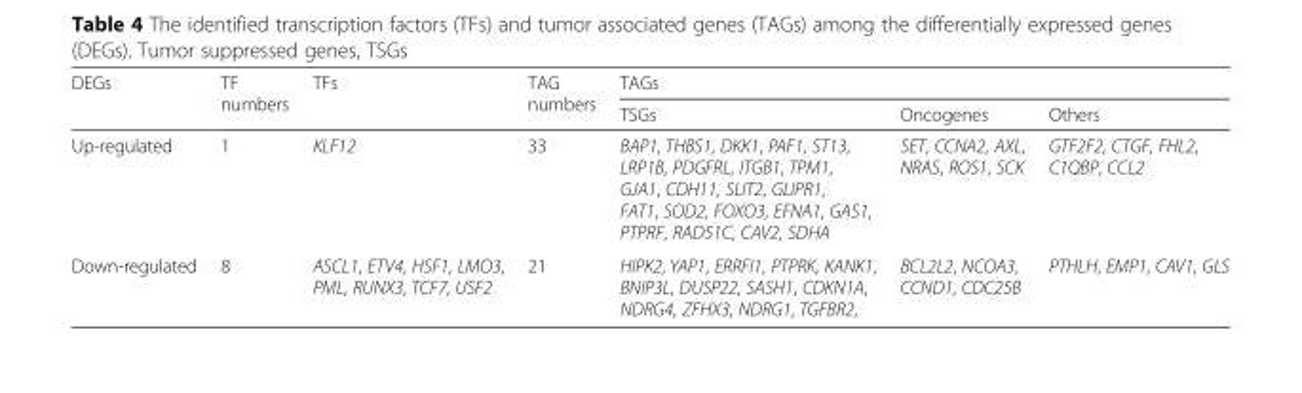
<table><thead><tr><td rowspan="2">DEGs</td><td rowspan="2">TF numbers</td><td rowspan="2">TFs</td><td rowspan="2">TAG numbers</td><td colspan="3">TAGs</td></tr><tr><td>TSGs</td><td>Oncogenes</td><td>Others</td></tr></thead><tbody><tr><td>Up-regulated</td><td>1</td><td>KLF12</td><td>33</td><td>BAP1, THBS1, DKK1, PAF1, ST13, LRP1B, PDGFRL, ITGB1, TPM1, GJA1, CDH11, SLIT2, GLIPR1, FAT1, SOD2, FOXO3, EFNA1, GAS1, PTPRF, RAD51C, CAV2, SDHA</td><td>SET, CCNA2, AXL, NRAS, ROS1, SCK</td><td>GTF2F2, CTGF, FHL2, C1QBP, CCL2</td></tr><tr><td>Down-regulated</td><td>8</td><td>ASCL1, ETV4, HSF1, LMO3, PML, RUNX3, TCF7, USF2</td><td>21</td><td>HIPK2, YAP1, ERRFI1, PTPRK, KANK1, BNIP3L, DUSP22, SASH1, CDKN1A, NDRG4, ZFHX3, NDRG1, TGFBR2,</td><td>BCL2L2, NCOA3, CCND1, CDC25B</td><td>PTHLH, EMP1, CAV1, GLS</td></tr></tbody></table>